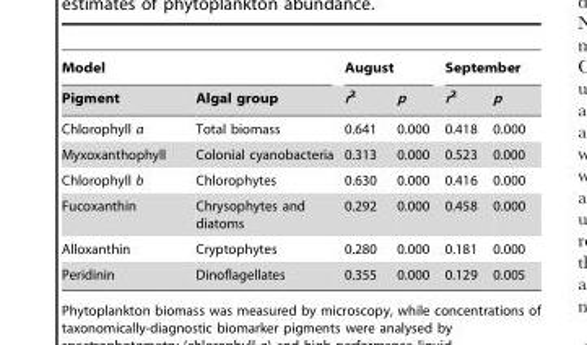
<table><thead><tr><td colspan="2">Model</td><td colspan="2">August</td><td colspan="2">September</td></tr><tr><td>Pigment</td><td>Algal group</td><td>r<sup>2</sup></td><td>p</td><td>r<sup>2</sup></td><td>p</td></tr></thead><tbody><tr><td>Chlorophyll a</td><td>Total biomass</td><td>0.641</td><td>0.000</td><td>0.418</td><td>0.000</td></tr><tr><td>Myxoxanthophyll</td><td>Colonial cyanobacteria</td><td>0.313</td><td>0.000</td><td>0.523</td><td>0.000</td></tr><tr><td>Chlorophyll b</td><td>Chlorophytes</td><td>0.630</td><td>0.000</td><td>0.416</td><td>0.000</td></tr><tr><td>Fucoxanthin</td><td>Chrysophytes and diatoms</td><td>0.292</td><td>0.000</td><td>0.458</td><td>0.000</td></tr><tr><td>Alloxanthin</td><td>Cryptophytes</td><td>0.280</td><td>0.000</td><td>0.181</td><td>0.000</td></tr><tr><td>Peridinin</td><td>Dinoflagellates</td><td>0.355</td><td>0.000</td><td>0.129</td><td>0.005</td></tr></tbody></table>